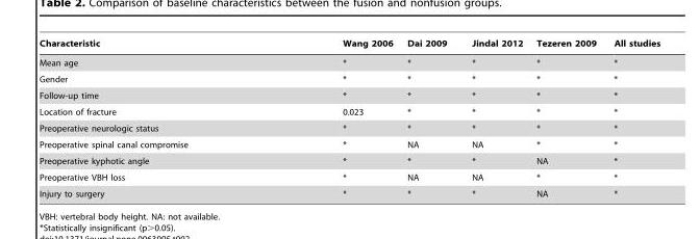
<table><thead><tr><td>Characteristic</td><td>Wang 2006</td><td>Dai 2009</td><td>Jindal 2012</td><td>Tezeren 2009</td><td>All studies</td></tr></thead><tbody><tr><td>Mean age</td><td>*</td><td>*</td><td>*</td><td>*</td><td>*</td></tr><tr><td>Gender</td><td>*</td><td>*</td><td>*</td><td>*</td><td>*</td></tr><tr><td>Follow-up time</td><td>*</td><td>*</td><td>*</td><td>*</td><td>*</td></tr><tr><td>Location of fracture</td><td>0.023</td><td>*</td><td>*</td><td>*</td><td>*</td></tr><tr><td>Preoperative neurologic status</td><td>*</td><td>*</td><td>*</td><td>*</td><td>*</td></tr><tr><td>Preoperative spinal canal compromise</td><td>*</td><td>NA</td><td>NA</td><td>*</td><td>*</td></tr><tr><td>Preoperative kyphotic angle</td><td>*</td><td>*</td><td>*</td><td>NA</td><td>*</td></tr><tr><td>Preoperative VBH loss</td><td>*</td><td>NA</td><td>NA</td><td>*</td><td>*</td></tr><tr><td>Injury to surgery</td><td>*</td><td>*</td><td>*</td><td>NA</td><td>*</td></tr></tbody></table>